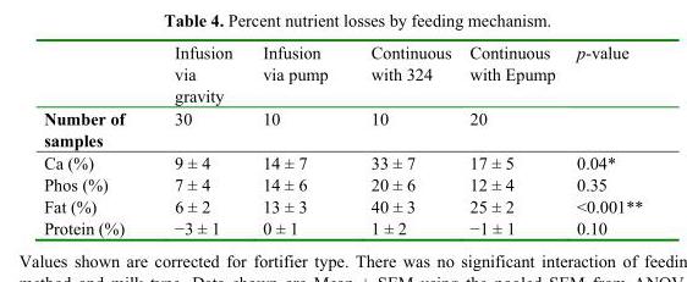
<table><thead><tr><td></td><td>Infusion via gravity</td><td>Infusion via pump</td><td>Continuous with 324</td><td>Continuous with Epump</td><td>p-value</td></tr></thead><tbody><tr><td>Number of samples</td><td>30</td><td>10</td><td>10</td><td>20</td><td></td></tr><tr><td>Ca (%)</td><td>9 ± 4</td><td>14 ± 7</td><td>33 ± 7</td><td>17 ± 5</td><td>0.04*</td></tr><tr><td>Phos (%)</td><td>7 ± 4</td><td>14 ± 6</td><td>20 ± 6</td><td>12 ± 4</td><td>0.35</td></tr><tr><td>Fat (%)</td><td>6 ± 2</td><td>13 ± 3</td><td>40 ± 3</td><td>25 ± 2</td><td>&lt;0.001**</td></tr><tr><td>Protein (%)</td><td>−3 ± 1</td><td>0 ± 1</td><td>1 ± 2</td><td>−1 ± 1</td><td>0.10</td></tr></tbody></table>